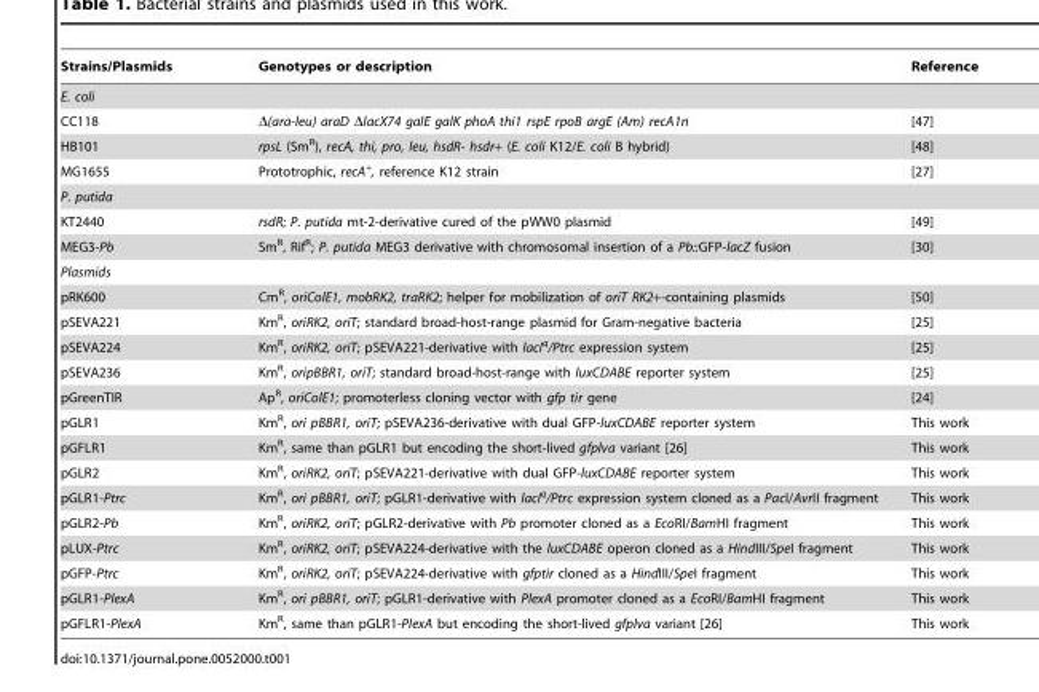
<table><thead><tr><td>Strains/Plasmids</td><td>Genotypes or description</td><td>Reference</td></tr></thead><tbody><tr><td colspan="3">E. coli</td></tr><tr><td>CC118</td><td>Δ(ara-leu) araD ΔlacX74 galE galK phoA thi1 rspE rpoB argE (Am) recA1n</td><td>[47]</td></tr><tr><td>HB101</td><td>rpsL (Sm<sup>R</sup>), recA, thi, pro, leu, hsdR- hsdr+ (E. coli K12/E. coli B hybrid)</td><td>[48]</td></tr><tr><td>MG1655</td><td>Prototrophic, recA<sup>+</sup>, reference K12 strain</td><td>[27]</td></tr><tr><td colspan="3">P. putida</td></tr><tr><td>KT2440</td><td>rsdR; P. putida mt-2-derivative cured of the pWW0 plasmid</td><td>[49]</td></tr><tr><td>MEG3-Pb</td><td>Sm<sup>R</sup>, Rif<sup>R</sup>; P. putida MEG3 derivative with chromosomal insertion of a Pb::GFP-lacZ fusion</td><td>[30]</td></tr><tr><td colspan="3">Plasmids</td></tr><tr><td>pRK600</td><td>Cm<sup>R</sup>, oriColE1, mobRK2, traRK2; helper for mobilization of oriT RK2+-containing plasmids</td><td>[50]</td></tr><tr><td>pSEVA221</td><td>Km<sup>R</sup>, oriRK2, oriT; standard broad-host-range plasmid for Gram-negative bacteria</td><td>[25]</td></tr><tr><td>pSEVA224</td><td>Km<sup>R</sup>, oriRK2, oriT; pSEVA221-derivative with lacI<sup>q</sup>/Ptrc expression system</td><td>[25]</td></tr><tr><td>pSEVA236</td><td>Km<sup>R</sup>, oripBBR1, oriT; standard broad-host-range with luxCDABE reporter system</td><td>[25]</td></tr><tr><td>pGreenTIR</td><td>Ap<sup>R</sup>, oriColE1; promoterless cloning vector with gfp tir gene</td><td>[24]</td></tr><tr><td>pGLR1</td><td>Km<sup>R</sup>, ori pBBR1, oriT; pSEVA236-derivative with dual GFP-luxCDABE reporter system</td><td>This work</td></tr><tr><td>pGFLR1</td><td>Km<sup>R</sup>, same than pGLR1 but encoding the short-lived gfplva variant [26]</td><td>This work</td></tr><tr><td>pGLR2</td><td>Km<sup>R</sup>, oriRK2, oriT; pSEVA221-derivative with dual GFP-luxCDABE reporter system</td><td>This work</td></tr><tr><td>pGLR1-Ptrc</td><td>Km<sup>R</sup>, ori pBBR1, oriT; pGLR1-derivative with lacI<sup>q</sup>/Ptrc expression system cloned as a PacI/AvrII fragment</td><td>This work</td></tr><tr><td>pGLR2-Pb</td><td>Km<sup>R</sup>, oriRK2, oriT; pGLR2-derivative with Pb promoter cloned as a EcoRI/BamHI fragment</td><td>This work</td></tr><tr><td>pLUX-Ptrc</td><td>Km<sup>R</sup>, oriRK2, oriT; pSEVA224-derivative with the luxCDABE operon cloned as a HindIII/SpeI fragment</td><td>This work</td></tr><tr><td>pGFP-Ptrc</td><td>Km<sup>R</sup>, oriRK2, oriT; pSEVA224-derivative with gfptir cloned as a HindIII/SpeI fragment</td><td>This work</td></tr><tr><td>pGLR1-PlexA</td><td>Km<sup>R</sup>, ori pBBR1, oriT; pGLR1-derivative with PlexA promoter cloned as a EcoRI/BamHI fragment</td><td>This work</td></tr><tr><td>pGFLR1-PlexA</td><td>Km<sup>R</sup>, same than pGLR1-PlexA but encoding the short-lived gfplva variant [26]</td><td>This work</td></tr></tbody></table>